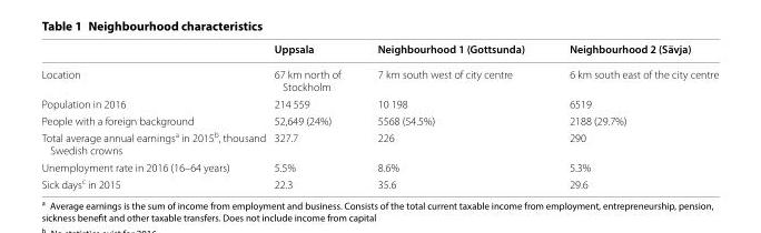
<table><thead><tr><td></td><td>Uppsala</td><td>Neighbourhood 1 (Gottsunda)</td><td>Neighbourhood 2 (Sävja)</td></tr></thead><tbody><tr><td>Location</td><td>67 km north of Stockholm</td><td>7 km south west of city centre</td><td>6 km south east of the city centre</td></tr><tr><td>Population in 2016</td><td>214 559</td><td>10 198</td><td>6519</td></tr><tr><td>People with a foreign background</td><td>52,649 (24%)</td><td>5568 (54.5%)</td><td>2188 (29.7%)</td></tr><tr><td>Total average annual earnings<sup>a</sup> in 2015<sup>b</sup>, thousand Swedish crowns</td><td>327.7</td><td>226</td><td>290</td></tr><tr><td>Unemployment rate in 2016 (16–64 years)</td><td>5.5%</td><td>8.6%</td><td>5.3%</td></tr><tr><td>Sick days<sup>c</sup> in 2015</td><td>22.3</td><td>35.6</td><td>29.6</td></tr></tbody></table>